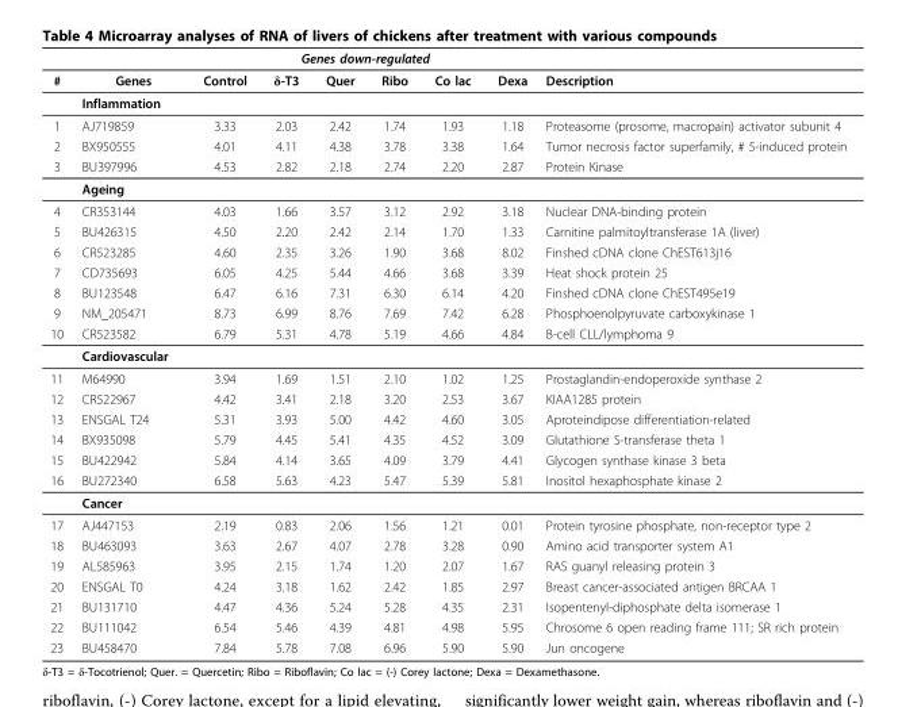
<table><thead><tr><td rowspan="2">#</td><td rowspan="2">Genes</td><td colspan="6">Genes down-regulated</td><td rowspan="2">Description</td></tr><tr><td>Control</td><td>δ-T3</td><td>Quer</td><td>Ribo</td><td>Co lac</td><td>Dexa</td></tr></thead><tbody><tr><td></td><td>Inflammation</td><td></td><td></td><td></td><td></td><td></td><td></td><td></td></tr><tr><td>1</td><td>AJ719859</td><td>3.33</td><td>2.03</td><td>2.42</td><td>1.74</td><td>1.93</td><td>1.18</td><td>Proteasome (prosome, macropain) activator subunit 4</td></tr><tr><td>2</td><td>BX950555</td><td>4.01</td><td>4.11</td><td>4.38</td><td>3.78</td><td>3.38</td><td>1.64</td><td>Tumor necrosis factor superfamily, # 5-induced protein</td></tr><tr><td rowspan="2">3</td><td>BU397996</td><td>4.53</td><td>2.82</td><td>2.18</td><td>2.74</td><td>2.20</td><td>2.87</td><td>Protein Kinase</td></tr><tr><td>Ageing</td><td></td><td></td><td></td><td></td><td></td><td></td><td></td></tr><tr><td>4</td><td>CR353144</td><td>4.03</td><td>1.66</td><td>3.57</td><td>3.12</td><td>2.92</td><td>3.18</td><td>Nuclear DNA-binding protein</td></tr><tr><td>5</td><td>BU426315</td><td>4.50</td><td>2.20</td><td>2.42</td><td>2.14</td><td>1.70</td><td>1.33</td><td>Carnitine palmitoyltransferase 1A (liver)</td></tr><tr><td>6</td><td>CR523285</td><td>4.60</td><td>2.35</td><td>3.26</td><td>1.90</td><td>3.68</td><td>8.02</td><td>Finshed cDNA clone ChEST613j16</td></tr><tr><td>7</td><td>CD735693</td><td>6.05</td><td>4.25</td><td>5.44</td><td>4.66</td><td>3.68</td><td>3.39</td><td>Heat shock protein 25</td></tr><tr><td>8</td><td>BU123548</td><td>6.47</td><td>6.16</td><td>7.31</td><td>6.30</td><td>6.14</td><td>4.20</td><td>Finshed cDNA clone ChEST495e19</td></tr><tr><td>9</td><td>NM_205471</td><td>8.73</td><td>6.99</td><td>8.76</td><td>7.69</td><td>7.42</td><td>6.28</td><td>Phosphoenolpyruvate carboxykinase 1</td></tr><tr><td rowspan="2">10</td><td>CR523582</td><td>6.79</td><td>5.31</td><td>4.78</td><td>5.19</td><td>4.66</td><td>4.84</td><td>B-cell CLL/lymphoma 9</td></tr><tr><td>Cardiovascular</td><td></td><td></td><td></td><td></td><td></td><td></td><td></td></tr><tr><td>11</td><td>M64990</td><td>3.94</td><td>1.69</td><td>1.51</td><td>2.10</td><td>1.02</td><td>1.25</td><td>Prostaglandin-endoperoxide synthase 2</td></tr><tr><td>12</td><td>CR522967</td><td>4.42</td><td>3.41</td><td>2.18</td><td>3.20</td><td>2.53</td><td>3.67</td><td>KIAA1285 protein</td></tr><tr><td>13</td><td>ENSGAL T24</td><td>5.31</td><td>3.93</td><td>5.00</td><td>4.42</td><td>4.60</td><td>3.05</td><td>Aproteindipose differentiation-related</td></tr><tr><td>14</td><td>BX935098</td><td>5.79</td><td>4.45</td><td>5.41</td><td>4.35</td><td>4.52</td><td>3.09</td><td>Glutathione S-transferase theta 1</td></tr><tr><td>15</td><td>BU422942</td><td>5.84</td><td>4.14</td><td>3.65</td><td>4.09</td><td>3.79</td><td>4.41</td><td>Glycogen synthase kinase 3 beta</td></tr><tr><td rowspan="2">16</td><td>BU272340</td><td>6.58</td><td>5.63</td><td>4.23</td><td>5.47</td><td>5.39</td><td>5.81</td><td>Inositol hexaphosphate kinase 2</td></tr><tr><td>Cancer</td><td></td><td></td><td></td><td></td><td></td><td></td><td></td></tr><tr><td>17</td><td>AJ447153</td><td>2.19</td><td>0.83</td><td>2.06</td><td>1.56</td><td>1.21</td><td>0.01</td><td>Protein tyrosine phosphate, non-receptor type 2</td></tr><tr><td>18</td><td>BU463093</td><td>3.63</td><td>2.67</td><td>4.07</td><td>2.78</td><td>3.28</td><td>0.90</td><td>Amino acid transporter system A1</td></tr><tr><td>19</td><td>AL585963</td><td>3.95</td><td>2.15</td><td>1.74</td><td>1.20</td><td>2.07</td><td>1.67</td><td>RAS guanyl releasing protein 3</td></tr><tr><td>20</td><td>ENSGAL T0</td><td>4.24</td><td>3.18</td><td>1.62</td><td>2.42</td><td>1.85</td><td>2.97</td><td>Breast cancer-associated antigen BRCAA 1</td></tr><tr><td>21</td><td>BU131710</td><td>4.47</td><td>4.36</td><td>5.24</td><td>5.28</td><td>4.35</td><td>2.31</td><td>Isopentenyl-diphosphate delta isomerase 1</td></tr><tr><td>22</td><td>BU111042</td><td>6.54</td><td>5.46</td><td>4.39</td><td>4.81</td><td>4.98</td><td>5.95</td><td>Chrosome 6 open reading frame 111; SR rich protein</td></tr><tr><td>23</td><td>BU458470</td><td>7.84</td><td>5.78</td><td>7.08</td><td>6.96</td><td>5.90</td><td>5.90</td><td>Jun oncogene</td></tr></tbody></table>